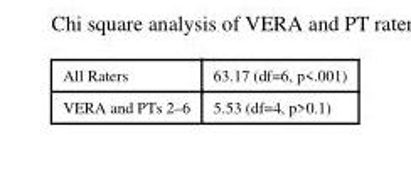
<table><tbody><tr><td>All Raters</td><td>63.17 (df=6, p&lt;.001)</td></tr><tr><td>VERA and PTs 2–6</td><td>5.53 (df=4, p&gt;0.1)</td></tr></tbody></table>